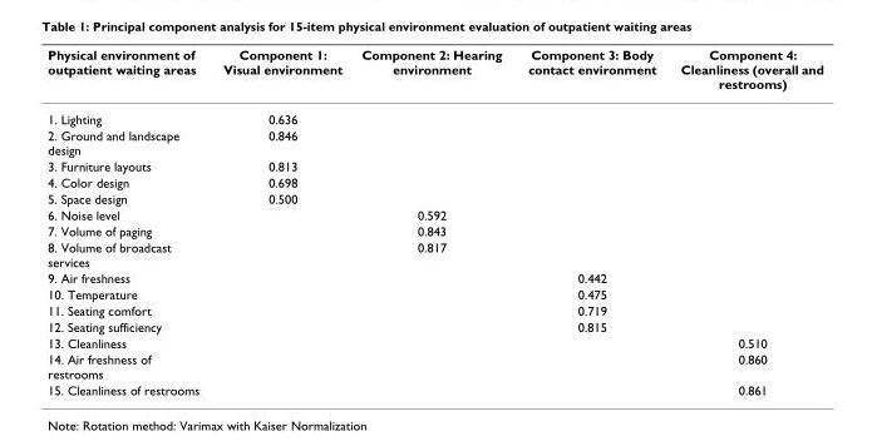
<table><thead><tr><td>Physical environment of outpatient waiting areas</td><td>Component 1: Visual environment</td><td>Component 2: Hearing environment</td><td>Component 3: Body contact environment</td><td>Component 4: Cleanliness (overall and restrooms)</td></tr></thead><tbody><tr><td>1. Lighting</td><td>0.636</td><td></td><td></td><td></td></tr><tr><td>2. Ground and landscape design</td><td>0.846</td><td></td><td></td><td></td></tr><tr><td>3. Furniture layouts</td><td>0.813</td><td></td><td></td><td></td></tr><tr><td>4. Color design</td><td>0.698</td><td></td><td></td><td></td></tr><tr><td>5. Space design</td><td>0.500</td><td></td><td></td><td></td></tr><tr><td>6. Noise level</td><td></td><td>0.592</td><td></td><td></td></tr><tr><td>7. Volume of paging</td><td></td><td>0.843</td><td></td><td></td></tr><tr><td>8. Volume of broadcast services</td><td></td><td>0.817</td><td></td><td></td></tr><tr><td>9. Air freshness</td><td></td><td></td><td>0.442</td><td></td></tr><tr><td>10. Temperature</td><td></td><td></td><td>0.475</td><td></td></tr><tr><td>11. Seating comfort</td><td></td><td></td><td>0.719</td><td></td></tr><tr><td>12. Seating sufficiency</td><td></td><td></td><td>0.815</td><td></td></tr><tr><td>13. Cleanliness</td><td></td><td></td><td></td><td>0.510</td></tr><tr><td>14. Air freshness of restrooms</td><td></td><td></td><td></td><td>0.860</td></tr><tr><td>15. Cleanliness of restrooms</td><td></td><td></td><td></td><td>0.861</td></tr></tbody></table>